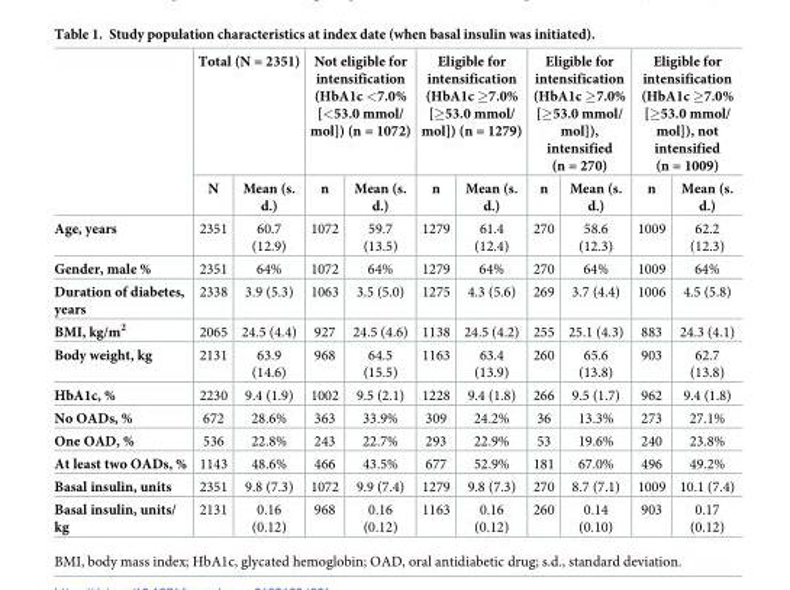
<table><thead><tr><td rowspan="2"></td><td colspan="2">Total (N = 2351)</td><td colspan="2">Not eligible for intensification (HbA1c &lt;7.0% [&lt;53.0 mmol/ mol]) (n = 1072)</td><td colspan="2">Eligible for intensification (HbA1c ≥7.0% [≥53.0 mmol/ mol]) (n = 1279)</td><td colspan="2">Eligible for intensification (HbA1c ≥7.0% [≥53.0 mmol/ mol]), intensified (n = 270)</td><td colspan="2">Eligible for intensification (HbA1c ≥7.0% [≥53.0 mmol/ mol]), not intensified (n = 1009)</td></tr><tr><td>N</td><td>Mean (s. d.)</td><td>n</td><td>Mean (s. d.)</td><td>n</td><td>Mean (s. d.)</td><td>n</td><td>Mean (s. d.)</td><td>n</td><td>Mean (s. d.)</td></tr></thead><tbody><tr><td>Age, years</td><td>2351</td><td>60.7 (12.9)</td><td>1072</td><td>59.7 (13.5)</td><td>1279</td><td>61.4 (12.4)</td><td>270</td><td>58.6 (12.3)</td><td>1009</td><td>62.2 (12.3)</td></tr><tr><td>Gender, male %</td><td>2351</td><td>64%</td><td>1072</td><td>64%</td><td>1279</td><td>64%</td><td>270</td><td>64%</td><td>1009</td><td>64%</td></tr><tr><td>Duration of diabetes, years</td><td>2338</td><td>3.9 (5.3)</td><td>1063</td><td>3.5 (5.0)</td><td>1275</td><td>4.3 (5.6)</td><td>269</td><td>3.7 (4.4)</td><td>1006</td><td>4.5 (5.8)</td></tr><tr><td>BMI, kg/m<sup>2</sup></td><td>2065</td><td>24.5 (4.4)</td><td>927</td><td>24.5 (4.6)</td><td>1138</td><td>24.5 (4.2)</td><td>255</td><td>25.1 (4.3)</td><td>883</td><td>24.3 (4.1)</td></tr><tr><td>Body weight, kg</td><td>2131</td><td>63.9 (14.6)</td><td>968</td><td>64.5 (15.5)</td><td>1163</td><td>63.4 (13.9)</td><td>260</td><td>65.6 (13.8)</td><td>903</td><td>62.7 (13.8)</td></tr><tr><td>HbA1c, %</td><td>2230</td><td>9.4 (1.9)</td><td>1002</td><td>9.5 (2.1)</td><td>1228</td><td>9.4 (1.8)</td><td>266</td><td>9.5 (1.7)</td><td>962</td><td>9.4 (1.8)</td></tr><tr><td>No OADs, %</td><td>672</td><td>28.6%</td><td>363</td><td>33.9%</td><td>309</td><td>24.2%</td><td>36</td><td>13.3%</td><td>273</td><td>27.1%</td></tr><tr><td>One OAD, %</td><td>536</td><td>22.8%</td><td>243</td><td>22.7%</td><td>293</td><td>22.9%</td><td>53</td><td>19.6%</td><td>240</td><td>23.8%</td></tr><tr><td>At least two OADs, %</td><td>1143</td><td>48.6%</td><td>466</td><td>43.5%</td><td>677</td><td>52.9%</td><td>181</td><td>67.0%</td><td>496</td><td>49.2%</td></tr><tr><td>Basal insulin, units</td><td>2351</td><td>9.8 (7.3)</td><td>1072</td><td>9.9 (7.4)</td><td>1279</td><td>9.8 (7.3)</td><td>270</td><td>8.7 (7.1)</td><td>1009</td><td>10.1 (7.4)</td></tr><tr><td>Basal insulin, units/ kg</td><td>2131</td><td>0.16 (0.12)</td><td>968</td><td>0.16 (0.12)</td><td>1163</td><td>0.16 (0.12)</td><td>260</td><td>0.14 (0.10)</td><td>903</td><td>0.17 (0.12)</td></tr></tbody></table>